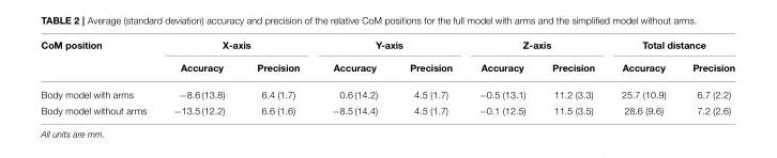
<table><thead><tr><td rowspan="2">CoM position</td><td colspan="2">X-axis</td><td colspan="2">Y-axis</td><td colspan="2">Z-axis</td><td colspan="2">Total distance</td></tr><tr><td>Accuracy</td><td>Precision</td><td>Accuracy</td><td>Precision</td><td>Accuracy</td><td>Precision</td><td>Accuracy</td><td>Precision</td></tr></thead><tbody><tr><td>Body model with arms</td><td>−8.6 (13.8)</td><td>6.4 (1.7)</td><td>0.6 (14.2)</td><td>4.5 (1.7)</td><td>−0.5 (13.1)</td><td>11.2 (3.3)</td><td>25.7 (10.9)</td><td>6.7 (2.2)</td></tr><tr><td>Body model without arms</td><td>−13.5 (12.2)</td><td>6.6 (1.6)</td><td>−8.5 (14.4)</td><td>4.5 (1.7)</td><td>−0.1 (12.5)</td><td>11.5 (3.5)</td><td>28.6 (9.6)</td><td>7.2 (2.6)</td></tr></tbody></table>